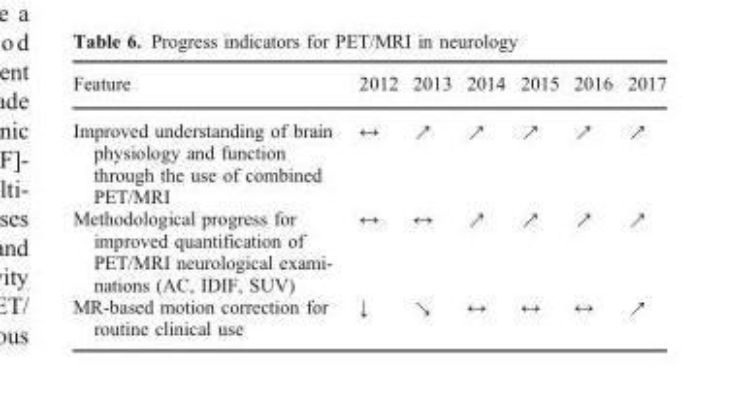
<table><thead><tr><td>Feature</td><td>2012</td><td>2013</td><td>2014</td><td>2015</td><td>2016</td><td>2017</td></tr></thead><tbody><tr><td>Improved understanding of brain physiology and function through the use of combined PET/MRI</td><td>↔</td><td>↗</td><td>↗</td><td>↗</td><td>↗</td><td>↗</td></tr><tr><td>Methodological progress for improved quantification of PET/MRI neurological exami- nations (AC, IDIF, SUV)</td><td>↔</td><td>↔</td><td>↗</td><td>↗</td><td>↗</td><td>↗</td></tr><tr><td>MR-based motion correction for routine clinical use</td><td>↓</td><td>↘</td><td>↔</td><td>↔</td><td>↔</td><td>↗</td></tr></tbody></table>